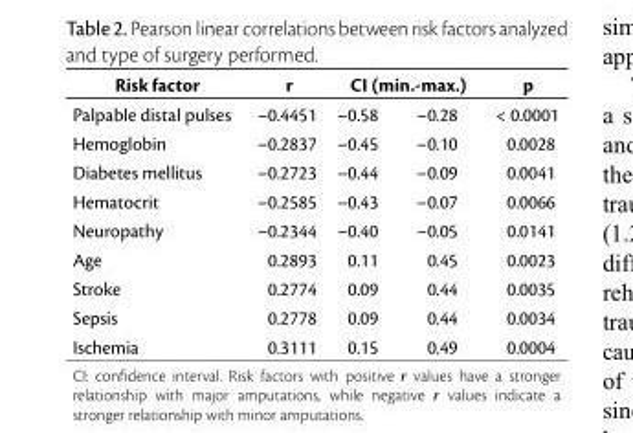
<table><thead><tr><td rowspan="2">Risk factor Palpable distal pulses</td><td rowspan="2">r –0.4451</td><td colspan="2">CI (min.-max.)</td><td rowspan="2">p &lt; 0.0001</td></tr><tr><td>–0.58</td><td>–0.28</td></tr></thead><tbody><tr><td>Hemoglobin</td><td>–0.2837</td><td>–0.45</td><td>–0.10</td><td>0.0028</td></tr><tr><td>Diabetes mellitus</td><td>–0.2723</td><td>–0.44</td><td>–0.09</td><td>0.0041</td></tr><tr><td>Hematocrit</td><td>–0.2585</td><td>–0.43</td><td>–0.07</td><td>0.0066</td></tr><tr><td>Neuropathy</td><td>–0.2344</td><td>–0.40</td><td>–0.05</td><td>0.0141</td></tr><tr><td>Age</td><td>0.2893</td><td>0.11</td><td>0.45</td><td>0.0023</td></tr><tr><td>Stroke</td><td>0.2774</td><td>0.09</td><td>0.44</td><td>0.0035</td></tr><tr><td>Sepsis</td><td>0.2778</td><td>0.09</td><td>0.44</td><td>0.0034</td></tr><tr><td>Ischemia</td><td>0.3111</td><td>0.15</td><td>0.49</td><td>0.0004</td></tr></tbody></table>